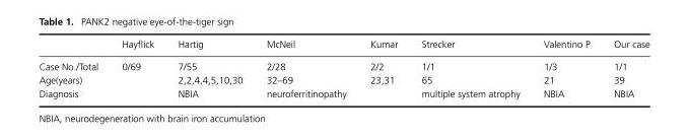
<table><thead><tr><td></td><td>Hayflick</td><td>Hartig</td><td>McNeil</td><td>Kumar</td><td>Strecker</td><td>Valentino P</td><td>Our case</td></tr></thead><tbody><tr><td>Case No./Total</td><td>0/69</td><td>7/55</td><td>2/28</td><td>2/2</td><td>1/1</td><td>1/3</td><td>1/1</td></tr><tr><td>Age(years)</td><td></td><td>2,2,4,4,5,10,30</td><td>32–69</td><td>23,31</td><td>65</td><td>21</td><td>39</td></tr><tr><td>Diagnosis</td><td></td><td>NBIA</td><td>neuroferritinopathy</td><td></td><td>multiple system atrophy</td><td>NBIA</td><td>NBIA</td></tr></tbody></table>